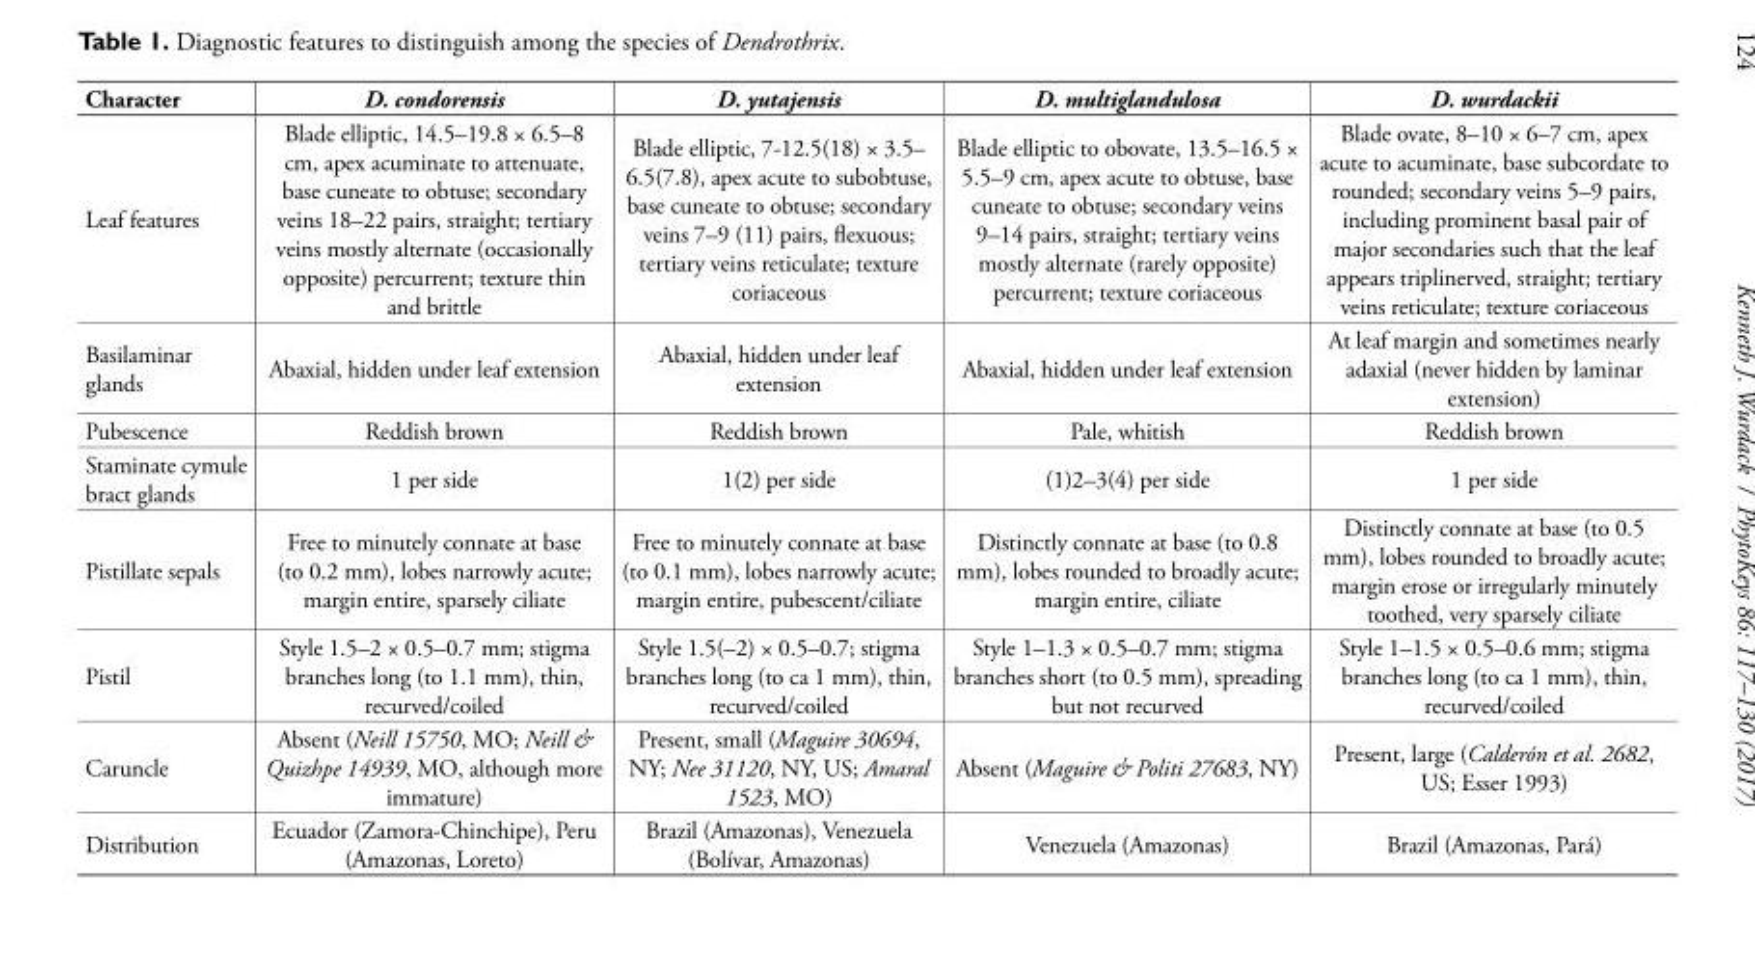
<table><thead><tr><td>Character</td><td>D. condorensis</td><td>D. yutajensis</td><td>D. multiglandulosa</td><td>D. wurdackii</td></tr></thead><tbody><tr><td>Leaf features</td><td>Blade elliptic, 14.5–19.8 × 6.5–8 cm, apex acuminate to attenuate, base cuneate to obtuse; secondary veins 18–22 pairs, straight; tertiary veins mostly alternate (occasionally opposite) percurrent; texture thin and brittle</td><td>Blade elliptic, 7-12.5(18) × 3.5– 6.5(7.8), apex acute to subobtuse, base cuneate to obtuse; secondary veins 7–9 (11) pairs, flexuous; tertiary veins reticulate; texture coriaceous</td><td>Blade elliptic to obovate, 13.5–16.5 × 5.5–9 cm, apex acute to obtuse, base cuneate to obtuse; secondary veins 9–14 pairs, straight; tertiary veins mostly alternate (rarely opposite) percurrent; texture coriaceous</td><td>Blade ovate, 8–10 × 6–7 cm, apex acute to acuminate, base subcordate to rounded; secondary veins 5–9 pairs, including prominent basal pair of major secondaries such that the leaf appears triplinerved, straight; tertiary veins reticulate; texture coriaceous</td></tr><tr><td>Basilaminar glands</td><td>Abaxial, hidden under leaf extension</td><td>Abaxial, hidden under leaf extension</td><td>Abaxial, hidden under leaf extension</td><td>At leaf margin and sometimes nearly adaxial (never hidden by laminar extension)</td></tr><tr><td>Pubescence</td><td>Reddish brown</td><td>Reddish brown</td><td>Pale, whitish</td><td>Reddish brown</td></tr><tr><td>Staminate cymule bract glands</td><td>1 per side</td><td>1(2) per side</td><td>(1)2–3(4) per side</td><td>1 per side</td></tr><tr><td>Pistillate sepals</td><td>Free to minutely connate at base (to 0.2 mm), lobes narrowly acute; margin entire, sparsely ciliate</td><td>Free to minutely connate at base (to 0.1 mm), lobes narrowly acute; margin entire, pubescent/ciliate</td><td>Distinctly connate at base (to 0.8 mm), lobes rounded to broadly acute; margin entire, ciliate</td><td>Distinctly connate at base (to 0.5 mm), lobes rounded to broadly acute; margin erose or irregularly minutely toothed, very sparsely ciliate</td></tr><tr><td>Pistil</td><td>Style 1.5–2 × 0.5–0.7 mm; stigma branches long (to 1.1 mm), thin, recurved/coiled</td><td>Style 1.5(–2) × 0.5–0.7; stigma branches long (to ca 1 mm), thin, recurved/coiled</td><td>Style 1–1.3 × 0.5–0.7 mm; stigma branches short (to 0.5 mm), spreading but not recurved</td><td>Style 1–1.5 × 0.5–0.6 mm; stigma branches long (to ca 1 mm), thin, recurved/coiled</td></tr><tr><td>Caruncle</td><td>Absent (Neill 15750, MO; Neill &amp; Quizhpe 14939, MO, although more immature)</td><td>Present, small (Maguire 30694, NY; Nee 31120, NY, US; Amaral 1523, MO)</td><td>Absent (Maguire &amp; Politi 27683, NY)</td><td>Present, large (Calderón et al. 2682, US; Esser 1993)</td></tr><tr><td>Distribution</td><td>Ecuador (Zamora-Chinchipe), Peru (Amazonas, Loreto)</td><td>Brazil (Amazonas), Venezuela (Bolívar, Amazonas)</td><td>Venezuela (Amazonas)</td><td>Brazil (Amazonas, Pará)</td></tr></tbody></table>